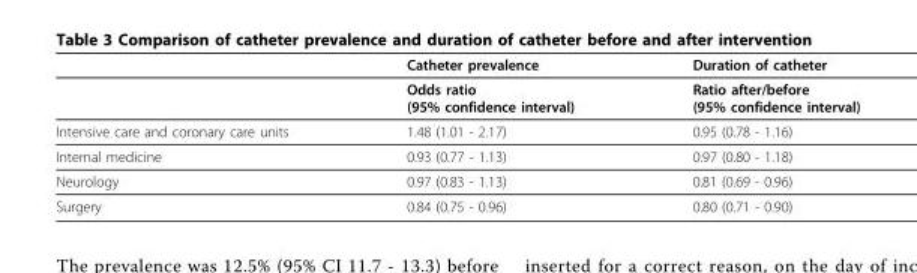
<table><thead><tr><td></td><td>Catheter prevalence</td><td>Duration of catheter</td></tr></thead><tbody><tr><td></td><td>Odds ratio (95% confidence interval)</td><td>Ratio after/before (95% confidence interval)</td></tr><tr><td>Intensive care and coronary care units</td><td>1.48 (1.01 - 2.17)</td><td>0.95 (0.78 - 1.16)</td></tr><tr><td>Internal medicine</td><td>0.93 (0.77 - 1.13)</td><td>0.97 (0.80 - 1.18)</td></tr><tr><td>Neurology</td><td>0.97 (0.83 - 1.13)</td><td>0.81 (0.69 - 0.96)</td></tr><tr><td>Surgery</td><td>0.84 (0.75 - 0.96)</td><td>0.80 (0.71 - 0.90)</td></tr></tbody></table>